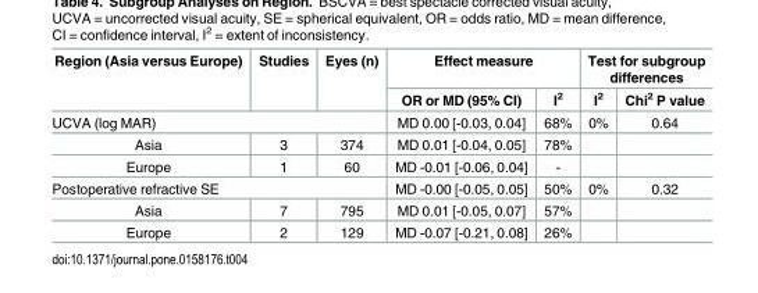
<table><thead><tr><td rowspan="2">Region (Asia versus Europe)</td><td rowspan="2">Studies</td><td rowspan="2">Eyes (n)</td><td colspan="2">Effect measure</td><td colspan="2">Test for subgroup differences</td></tr><tr><td>OR or MD (95% CI)</td><td>I<sup>2</sup></td><td>I<sup>2</sup></td><td>Chi<sup>2</sup> P value</td></tr></thead><tbody><tr><td colspan="3">UCVA (log MAR)</td><td>MD 0.00 [-0.03, 0.04]</td><td>68%</td><td>0%</td><td>0.64</td></tr><tr><td>Asia</td><td>3</td><td>374</td><td>MD 0.01 [-0.04, 0.05]</td><td>78%</td><td></td><td></td></tr><tr><td>Europe</td><td>1</td><td>60</td><td>MD -0.01 [-0.06, 0.04]</td><td>-</td><td></td><td></td></tr><tr><td colspan="3">Postoperative refractive SE</td><td>MD -0.00 [-0.05, 0.05]</td><td>50%</td><td>0%</td><td>0.32</td></tr><tr><td>Asia</td><td>7</td><td>795</td><td>MD 0.01 [-0.05, 0.07]</td><td>57%</td><td></td><td></td></tr><tr><td>Europe</td><td>2</td><td>129</td><td>MD -0.07 [-0.21, 0.08]</td><td>26%</td><td></td><td></td></tr></tbody></table>